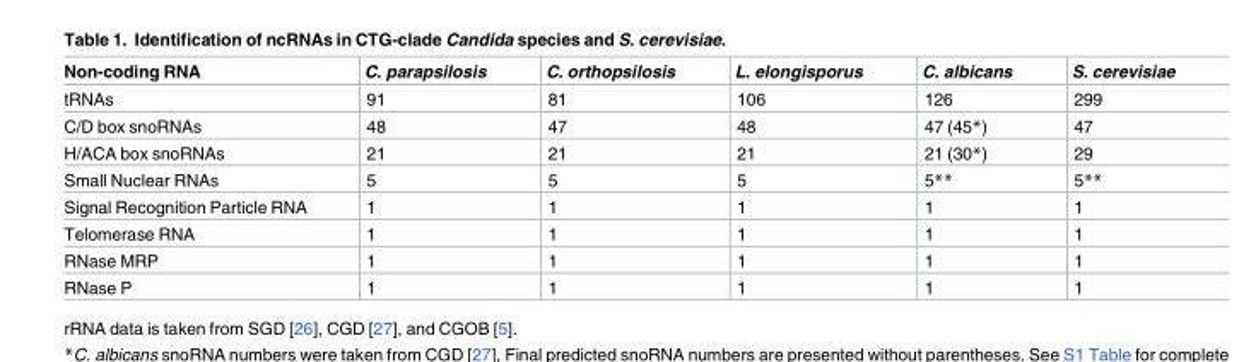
<table><thead><tr><td>Non-coding RNA</td><td>C. parapsilosis</td><td>C. orthopsilosis</td><td>L. elongisporus</td><td>C. albicans</td><td>S. cerevisiae</td></tr></thead><tbody><tr><td>tRNAs</td><td>91</td><td>81</td><td>106</td><td>126</td><td>299</td></tr><tr><td>C/D box snoRNAs</td><td>48</td><td>47</td><td>48</td><td>47 (45*)</td><td>47</td></tr><tr><td>H/ACA box snoRNAs</td><td>21</td><td>21</td><td>21</td><td>21 (30*)</td><td>29</td></tr><tr><td>Small Nuclear RNAs</td><td>5</td><td>5</td><td>5</td><td>5**</td><td>5**</td></tr><tr><td>Signal Recognition Particle RNA</td><td>1</td><td>1</td><td>1</td><td>1</td><td>1</td></tr><tr><td>Telomerase RNA</td><td>1</td><td>1</td><td>1</td><td>1</td><td>1</td></tr><tr><td>RNase MRP</td><td>1</td><td>1</td><td>1</td><td>1</td><td>1</td></tr><tr><td>RNase P</td><td>1</td><td>1</td><td>1</td><td>1</td><td>1</td></tr></tbody></table>